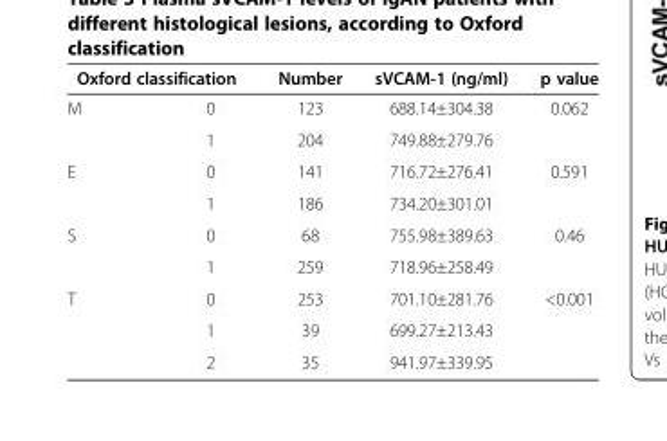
<table><thead><tr><td colspan="2">Oxford classification</td><td rowspan="2">Number 123</td><td rowspan="2">sVCAM-1 (ng/ml) 688.14±304.38</td><td rowspan="2">p value 0.062</td></tr><tr><td>M</td><td>0</td></tr></thead><tbody><tr><td></td><td>1</td><td>204</td><td>749.88±279.76</td><td></td></tr><tr><td rowspan="2">E</td><td>0</td><td>141</td><td>716.72±276.41</td><td>0.591</td></tr><tr><td>1</td><td>186</td><td>734.20±301.01</td><td></td></tr><tr><td rowspan="2">S</td><td>0</td><td>68</td><td>755.98±389.63</td><td>0.46</td></tr><tr><td>1</td><td>259</td><td>718.96±258.49</td><td></td></tr><tr><td rowspan="3">T</td><td>0</td><td>253</td><td>701.10±281.76</td><td>&lt;0.001</td></tr><tr><td>1</td><td>39</td><td>699.27±213.43</td><td></td></tr><tr><td>2</td><td>35</td><td>941.97±339.95</td><td></td></tr></tbody></table>